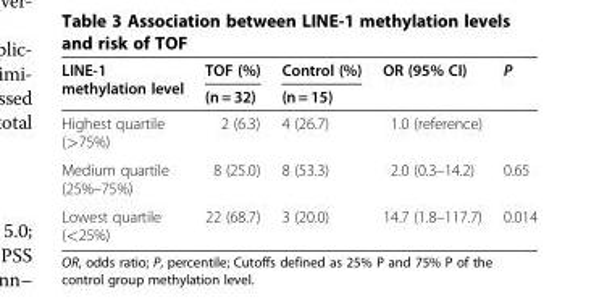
<table><thead><tr><td rowspan="2">LINE-1 methylation level</td><td rowspan="2">TOF (%) (n = 32)</td><td rowspan="2">Control (%) (n = 15)</td><td rowspan="2">OR (95% CI)</td><td rowspan="2">P</td></tr><tr></tr></thead><tbody><tr><td>Highest quartile (&gt;75%)</td><td>2 (6.3)</td><td>4 (26.7)</td><td>1.0 (reference)</td><td></td></tr><tr><td>Medium quartile (25%–75%)</td><td>8 (25.0)</td><td>8 (53.3)</td><td>2.0 (0.3–14.2)</td><td>0.65</td></tr><tr><td>Lowest quartile (&lt;25%)</td><td>22 (68.7)</td><td>3 (20.0)</td><td>14.7 (1.8–117.7)</td><td>0.014</td></tr></tbody></table>